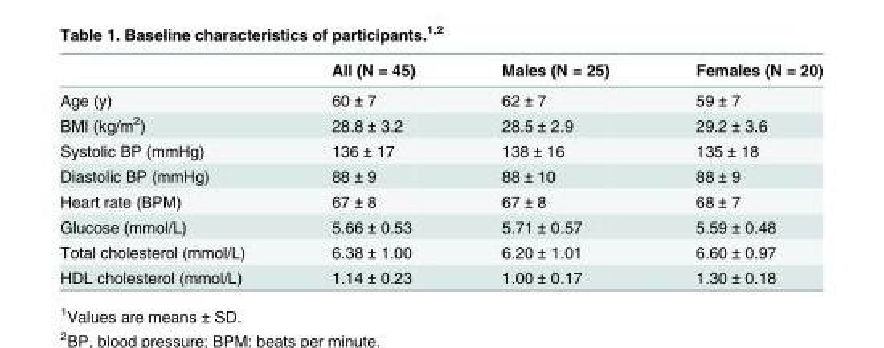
<table><thead><tr><td></td><td>All (N = 45)</td><td>Males (N = 25)</td><td>Females (N = 20)</td></tr></thead><tbody><tr><td>Age (y)</td><td>60 ± 7</td><td>62 ± 7</td><td>59 ± 7</td></tr><tr><td>BMI (kg/m<sup>2</sup>)</td><td>28.8 ± 3.2</td><td>28.5 ± 2.9</td><td>29.2 ± 3.6</td></tr><tr><td>Systolic BP (mmHg)</td><td>136 ± 17</td><td>138 ± 16</td><td>135 ± 18</td></tr><tr><td>Diastolic BP (mmHg)</td><td>88 ± 9</td><td>88 ± 10</td><td>88 ± 9</td></tr><tr><td>Heart rate (BPM)</td><td>67 ± 8</td><td>67 ± 8</td><td>68 ± 7</td></tr><tr><td>Glucose (mmol/L)</td><td>5.66 ± 0.53</td><td>5.71 ± 0.57</td><td>5.59 ± 0.48</td></tr><tr><td>Total cholesterol (mmol/L)</td><td>6.38 ± 1.00</td><td>6.20 ± 1.01</td><td>6.60 ± 0.97</td></tr><tr><td>HDL cholesterol (mmol/L)</td><td>1.14 ± 0.23</td><td>1.00 ± 0.17</td><td>1.30 ± 0.18</td></tr></tbody></table>